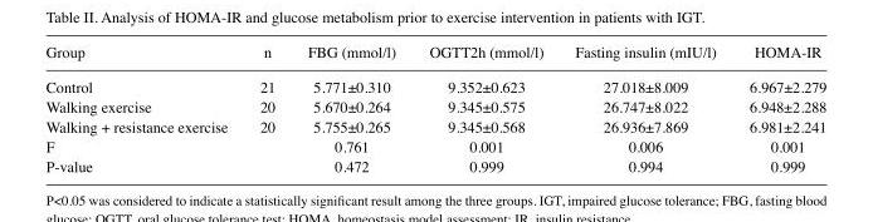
<table><thead><tr><td>Group</td><td>n</td><td>FBG (mmol/l)</td><td>OGTT2h (mmol/l)</td><td>Fasting insulin (mIU/l)</td><td>HOMA-IR</td></tr></thead><tbody><tr><td>Control</td><td>21</td><td>5.771±0.310</td><td>9.352±0.623</td><td>27.018±8.009</td><td>6.967±2.279</td></tr><tr><td>Walking exercise</td><td>20</td><td>5.670±0.264</td><td>9.345±0.575</td><td>26.747±8.022</td><td>6.948±2.288</td></tr><tr><td>Walking + resistance exercise</td><td>20</td><td>5.755±0.265</td><td>9.345±0.568</td><td>26.936±7.869</td><td>6.981±2.241</td></tr><tr><td>F</td><td></td><td>0.761</td><td>0.001</td><td>0.006</td><td>0.001</td></tr><tr><td>P-value</td><td></td><td>0.472</td><td>0.999</td><td>0.994</td><td>0.999</td></tr></tbody></table>